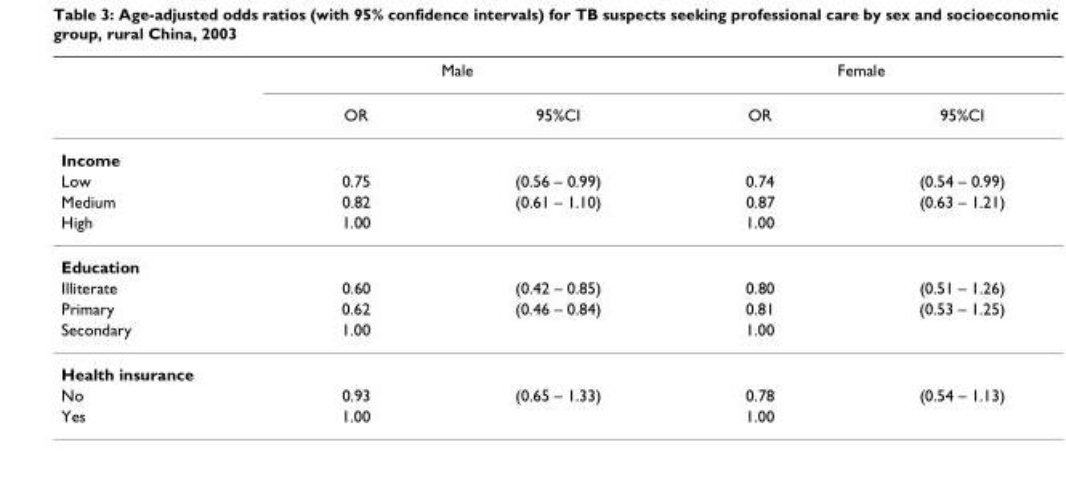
<table><thead><tr><td rowspan="2"></td><td colspan="2">Male</td><td colspan="2">Female</td></tr><tr><td>OR</td><td>95%CI</td><td>OR</td><td>95%CI</td></tr></thead><tbody><tr><td colspan="5">Income</td></tr><tr><td>Low</td><td>0.75</td><td>(0.56 – 0.99)</td><td>0.74</td><td>(0.54 – 0.99)</td></tr><tr><td>Medium</td><td>0.82</td><td>(0.61 – 1.10)</td><td>0.87</td><td>(0.63 – 1.21)</td></tr><tr><td>High</td><td>1.00</td><td></td><td>1.00</td><td></td></tr><tr><td colspan="5">Education</td></tr><tr><td>Illiterate</td><td>0.60</td><td>(0.42 – 0.85)</td><td>0.80</td><td>(0.51 – 1.26)</td></tr><tr><td>Primary</td><td>0.62</td><td>(0.46 – 0.84)</td><td>0.81</td><td>(0.53 – 1.25)</td></tr><tr><td>Secondary</td><td>1.00</td><td></td><td>1.00</td><td></td></tr><tr><td colspan="5">Health insurance</td></tr><tr><td>No</td><td>0.93</td><td>(0.65 – 1.33)</td><td>0.78</td><td>(0.54 – 1.13)</td></tr><tr><td>Yes</td><td>1.00</td><td></td><td>1.00</td><td></td></tr></tbody></table>